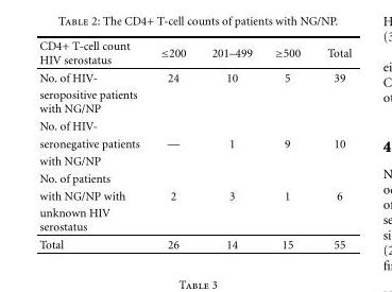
<table><thead><tr><td>CD4+ T-cell count HIV serostatus</td><td>≤200</td><td>201–499</td><td>≥500</td><td>Total</td></tr></thead><tbody><tr><td>No. of HIV-</td><td>24</td><td>10</td><td>5</td><td>39</td></tr><tr><td colspan="5">seropositive patients with NG/NP</td></tr><tr><td colspan="5">No. of HIV-</td></tr><tr><td>seronegative patients</td><td>—</td><td>1</td><td>9</td><td>10</td></tr><tr><td colspan="5">with NG/NP</td></tr><tr><td colspan="5">No. of patients</td></tr><tr><td>with NG/NP with</td><td>2</td><td>3</td><td>1</td><td>6</td></tr><tr><td colspan="5">unknown HIV serostatus</td></tr><tr><td>Total</td><td>26</td><td>14</td><td>15</td><td>55</td></tr></tbody></table>